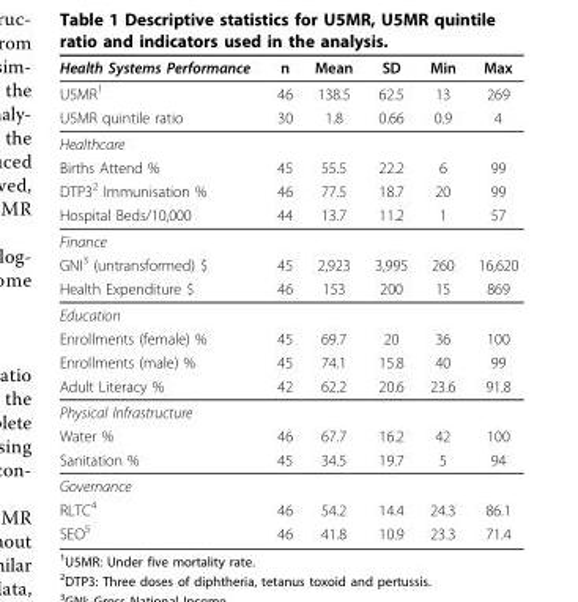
<table><thead><tr><td>Health Systems Performance</td><td>n</td><td>Mean</td><td>SD</td><td>Min</td><td>Max</td></tr></thead><tbody><tr><td>U5MR<sup>1</sup></td><td>46</td><td>138.5</td><td>62.5</td><td>13</td><td>269</td></tr><tr><td>U5MR quintile ratio</td><td>30</td><td>1.8</td><td>0.66</td><td>0.9</td><td>4</td></tr><tr><td colspan="6">Healthcare</td></tr><tr><td>Births Attend %</td><td>45</td><td>55.5</td><td>22.2</td><td>6</td><td>99</td></tr><tr><td>DTP3<sup>2</sup> Immunisation %</td><td>46</td><td>77.5</td><td>18.7</td><td>20</td><td>99</td></tr><tr><td>Hospital Beds/10,000</td><td>44</td><td>13.7</td><td>11.2</td><td>1</td><td>57</td></tr><tr><td colspan="6">Finance</td></tr><tr><td>GNI<sup>3</sup> (untransformed) $</td><td>45</td><td>2,923</td><td>3,995</td><td>260</td><td>16,620</td></tr><tr><td>Health Expenditure $</td><td>46</td><td>153</td><td>200</td><td>15</td><td>869</td></tr><tr><td colspan="6">Education</td></tr><tr><td>Enrollments (female) %</td><td>45</td><td>69.7</td><td>20</td><td>36</td><td>100</td></tr><tr><td>Enrollments (male) %</td><td>45</td><td>74.1</td><td>15.8</td><td>40</td><td>99</td></tr><tr><td>Adult Literacy %</td><td>42</td><td>62.2</td><td>20.6</td><td>23.6</td><td>91.8</td></tr><tr><td colspan="6">Physical Infrastructure</td></tr><tr><td>Water %</td><td>46</td><td>67.7</td><td>16.2</td><td>42</td><td>100</td></tr><tr><td>Sanitation %</td><td>45</td><td>34.5</td><td>19.7</td><td>5</td><td>94</td></tr><tr><td colspan="6">Governance</td></tr><tr><td>RLTC<sup>4</sup></td><td>46</td><td>54.2</td><td>14.4</td><td>24.3</td><td>86.1</td></tr><tr><td>SEO<sup>5</sup></td><td>46</td><td>41.8</td><td>10.9</td><td>23.3</td><td>71.4</td></tr></tbody></table>